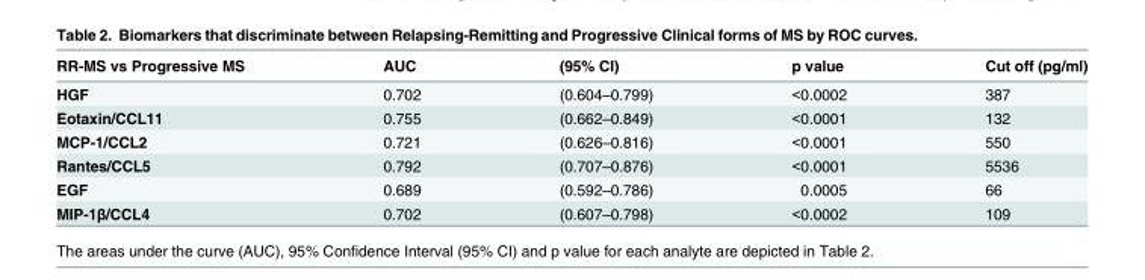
<table><thead><tr><td>RR-MS vs Progressive MS</td><td>AUC</td><td>(95% CI)</td><td>p value</td><td>Cut off (pg/ml)</td></tr></thead><tbody><tr><td>HGF</td><td>0.702</td><td>(0.604–0.799)</td><td>&lt;0.0002</td><td>387</td></tr><tr><td>Eotaxin/CCL11</td><td>0.755</td><td>(0.662–0.849)</td><td>&lt;0.0001</td><td>132</td></tr><tr><td>MCP-1/CCL2</td><td>0.721</td><td>(0.626–0.816)</td><td>&lt;0.0001</td><td>550</td></tr><tr><td>Rantes/CCL5</td><td>0.792</td><td>(0.707–0.876)</td><td>&lt;0.0001</td><td>5536</td></tr><tr><td>EGF</td><td>0.689</td><td>(0.592–0.786)</td><td>0.0005</td><td>66</td></tr><tr><td>MIP-1β/CCL4</td><td>0.702</td><td>(0.607–0.798)</td><td>&lt;0.0002</td><td>109</td></tr></tbody></table>